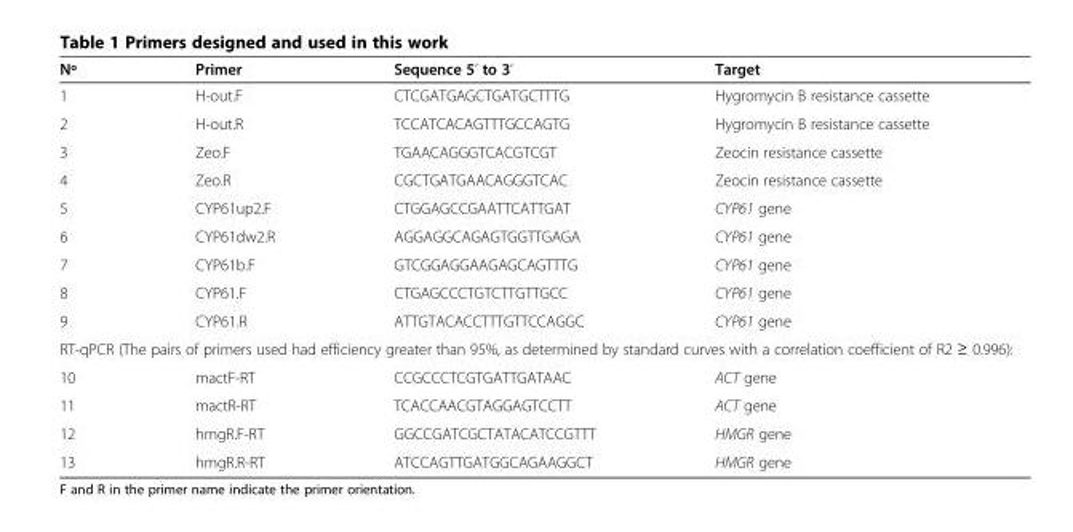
<table><thead><tr><td>Nº</td><td>Primer</td><td>Sequence 5’ to 3’</td><td>Target</td></tr></thead><tbody><tr><td>1</td><td>H-out.F</td><td>CTCGATGAGCTGATGCTTTG</td><td>Hygromycin B resistance cassette</td></tr><tr><td>2</td><td>H-out.R</td><td>TCCATCACAGTTTGCCAGTG</td><td>Hygromycin B resistance cassette</td></tr><tr><td>3</td><td>Zeo.F</td><td>TGAACAGGGTCACGTCGT</td><td>Zeocin resistance cassette</td></tr><tr><td>4</td><td>Zeo.R</td><td>CGCTGATGAACAGGGTCAC</td><td>Zeocin resistance cassette</td></tr><tr><td>5</td><td>CYP61up2.F</td><td>CTGGAGCCGAATTCATTGAT</td><td>CYP61 gene</td></tr><tr><td>6</td><td>CYP61dw2.R</td><td>AGGAGGCAGAGTGGTTGAGA</td><td>CYP61 gene</td></tr><tr><td>7</td><td>CYP61b.F</td><td>GTCGGAGGAAGAGCAGTTTG</td><td>CYP61 gene</td></tr><tr><td>8</td><td>CYP61.F</td><td>CTGAGCCCTGTCTTGTTGCC</td><td>CYP61 gene</td></tr><tr><td>9</td><td>CYP61.R</td><td>ATTGTACACCTTTGTTCCAGGC</td><td>CYP61 gene</td></tr><tr><td colspan="4">RT-qPCR (The pairs of primers used had efficiency greater than 95%, as determined by standard curves with a correlation coefficient of R2 ≥ 0.996):</td></tr><tr><td>10</td><td>mactF-RT</td><td>CCGCCCTCGTGATTGATAAC</td><td>ACT gene</td></tr><tr><td>11</td><td>mactR-RT</td><td>TCACCAACGTAGGAGTCCTT</td><td>ACT gene</td></tr><tr><td>12</td><td>hmgR.F-RT</td><td>GGCCGATCGCTATACATCCGTTT</td><td>HMGR gene</td></tr><tr><td>13</td><td>hmgR.R-RT</td><td>ATCCAGTTGATGGCAGAAGGCT</td><td>HMGR gene</td></tr></tbody></table>